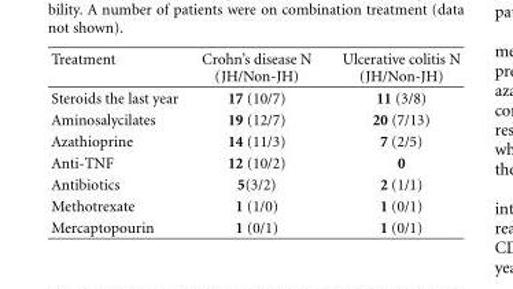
<table><thead><tr><td rowspan="2">Treatment</td><td rowspan="2">Crohn’s disease N (JH/Non-JH)</td><td rowspan="2">Ulcerative colitis N (JH/Non-JH)</td></tr><tr></tr></thead><tbody><tr><td>Steroids the last year</td><td>17 (10/7)</td><td>11 (3/8)</td></tr><tr><td>Aminosalycilates</td><td>19 (12/7)</td><td>20 (7/13)</td></tr><tr><td>Azathioprine</td><td>14 (11/3)</td><td>7 (2/5)</td></tr><tr><td>Anti-TNF</td><td>12 (10/2)</td><td>0</td></tr><tr><td>Antibiotics</td><td>5(3/2)</td><td>2 (1/1)</td></tr><tr><td>Methotrexate</td><td>1 (1/0)</td><td>1 (0/1)</td></tr><tr><td>Mercaptopourin</td><td>1 (0/1)</td><td>1 (0/1)</td></tr></tbody></table>